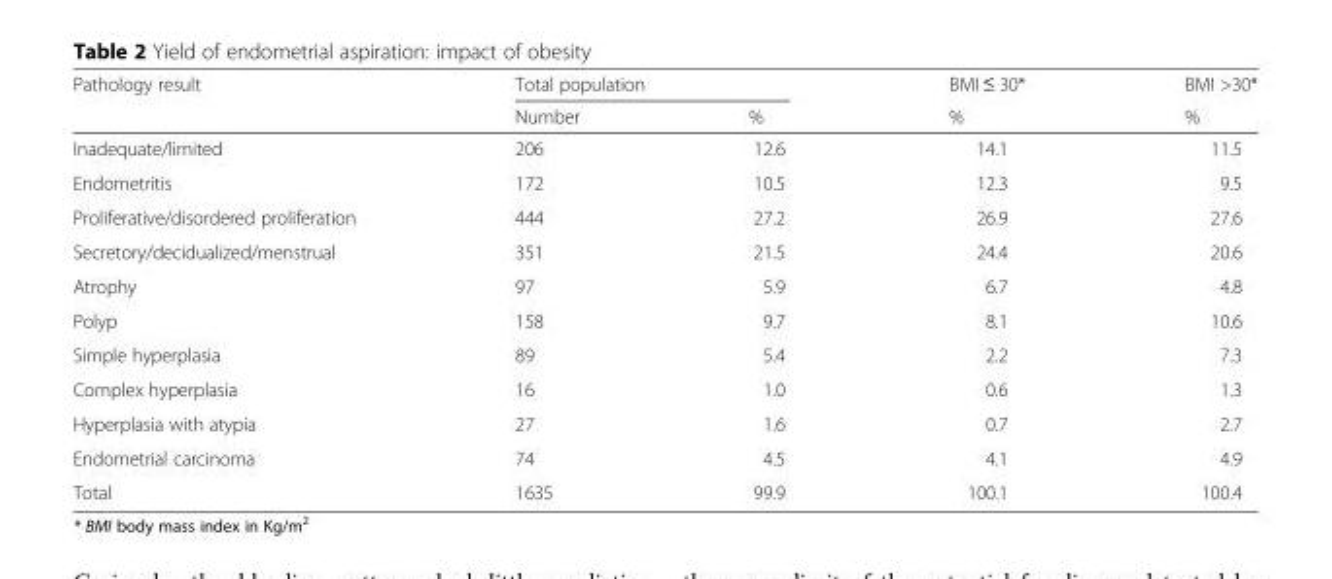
<table><thead><tr><td rowspan="2">Pathology result</td><td colspan="2">Total population</td><td rowspan="2">BMI ≤ 30* %</td><td rowspan="2">BMI &gt;30* %</td></tr><tr><td>Number</td><td>%</td></tr></thead><tbody><tr><td>Inadequate/limited</td><td>206</td><td>12.6</td><td>14.1</td><td>11.5</td></tr><tr><td>Endometritis</td><td>172</td><td>10.5</td><td>12.3</td><td>9.5</td></tr><tr><td>Proliferative/disordered proliferation</td><td>444</td><td>27.2</td><td>26.9</td><td>27.6</td></tr><tr><td>Secretory/decidualized/menstrual</td><td>351</td><td>21.5</td><td>24.4</td><td>20.6</td></tr><tr><td>Atrophy</td><td>97</td><td>5.9</td><td>6.7</td><td>4.8</td></tr><tr><td>Polyp</td><td>158</td><td>9.7</td><td>8.1</td><td>10.6</td></tr><tr><td>Simple hyperplasia</td><td>89</td><td>5.4</td><td>2.2</td><td>7.3</td></tr><tr><td>Complex hyperplasia</td><td>16</td><td>1.0</td><td>0.6</td><td>1.3</td></tr><tr><td>Hyperplasia with atypia</td><td>27</td><td>1.6</td><td>0.7</td><td>2.7</td></tr><tr><td>Endometrial carcinoma</td><td>74</td><td>4.5</td><td>4.1</td><td>4.9</td></tr><tr><td>Total</td><td>1635</td><td>99.9</td><td>100.1</td><td>100.4</td></tr></tbody></table>